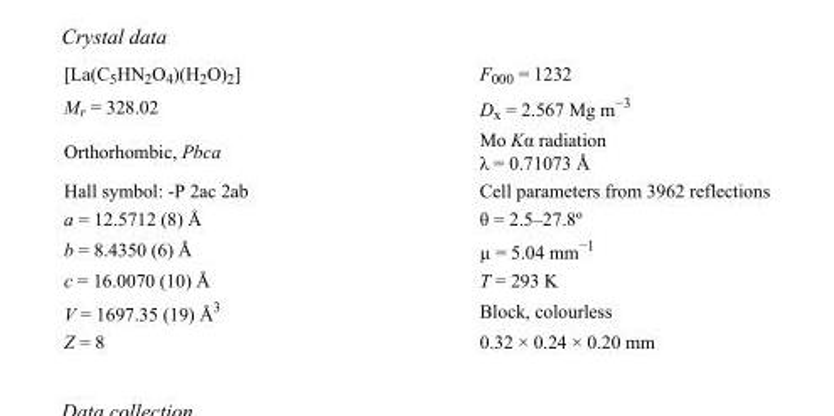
<table><tbody><tr><td>[La(C<sub>5</sub>HN<sub>2</sub>O<sub>4</sub>)(H<sub>2</sub>O)<sub>2</sub>]</td><td>F000 = 1232</td></tr><tr><td>M<sub>r</sub> = 328.02</td><td>D<sub>x</sub> = 2.567 Mg m<sup>−3</sup></td></tr><tr><td>Orthorhombic, Pbca</td><td>Mo Kα radiation λ = 0.71073 Å</td></tr><tr><td>Hall symbol: -P 2ac 2ab</td><td>Cell parameters from 3962 reflections</td></tr><tr><td>a = 12.5712 (8) Å</td><td>θ = 2.5–27.8º</td></tr><tr><td>b = 8.4350 (6) Å</td><td>µ = 5.04 mm<sup>−1</sup></td></tr><tr><td>c = 16.0070 (10) Å</td><td>T = 293 K</td></tr><tr><td>V = 1697.35 (19) Å<sup>3</sup></td><td>Block, colourless</td></tr><tr><td>Z = 8</td><td>0.32 × 0.24 × 0.20 mm</td></tr></tbody></table>